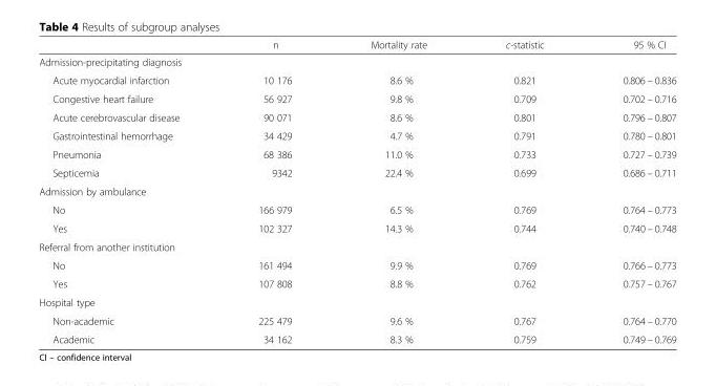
<table><thead><tr><td></td><td>n</td><td>Mortality rate</td><td>c-statistic</td><td>95 % CI</td></tr></thead><tbody><tr><td colspan="5">Admission-precipitating diagnosis</td></tr><tr><td>Acute myocardial infarction</td><td>10 176</td><td>8.6 %</td><td>0.821</td><td>0.806 – 0.836</td></tr><tr><td>Congestive heart failure</td><td>56 927</td><td>9.8 %</td><td>0.709</td><td>0.702 – 0.716</td></tr><tr><td>Acute cerebrovascular disease</td><td>90 071</td><td>8.6 %</td><td>0.801</td><td>0.796 – 0.807</td></tr><tr><td>Gastrointestinal hemorrhage</td><td>34 429</td><td>4.7 %</td><td>0.791</td><td>0.780 – 0.801</td></tr><tr><td>Pneumonia</td><td>68 386</td><td>11.0 %</td><td>0.733</td><td>0.727 – 0.739</td></tr><tr><td>Septicemia</td><td>9342</td><td>22.4 %</td><td>0.699</td><td>0.686 – 0.711</td></tr><tr><td colspan="5">Admission by ambulance</td></tr><tr><td>No</td><td>166 979</td><td>6.5 %</td><td>0.769</td><td>0.764 – 0.773</td></tr><tr><td>Yes</td><td>102 327</td><td>14.3 %</td><td>0.744</td><td>0.740 – 0.748</td></tr><tr><td colspan="5">Referral from another institution</td></tr><tr><td>No</td><td>161 494</td><td>9.9 %</td><td>0.769</td><td>0.766 – 0.773</td></tr><tr><td>Yes</td><td>107 808</td><td>8.8 %</td><td>0.762</td><td>0.757 – 0.767</td></tr><tr><td colspan="5">Hospital type</td></tr><tr><td>Non-academic</td><td>225 479</td><td>9.6 %</td><td>0.767</td><td>0.764 – 0.770</td></tr><tr><td>Academic</td><td>34 162</td><td>8.3 %</td><td>0.759</td><td>0.749 – 0.769</td></tr></tbody></table>